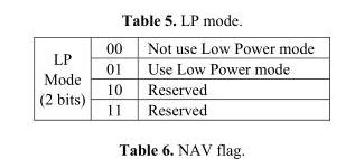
<table><tbody><tr><td rowspan="4">LP Mode (2 bits)</td><td>00</td><td>Not use Low Power mode</td></tr><tr><td>01</td><td>Use Low Power mode</td></tr><tr><td>10</td><td>Reserved</td></tr><tr><td>11</td><td>Reserved</td></tr></tbody></table>